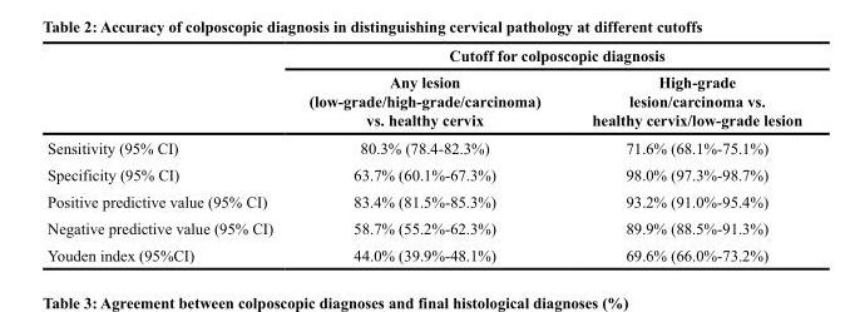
<table><thead><tr><td rowspan="2"></td><td colspan="2">Cutoff for colposcopic diagnosis</td></tr><tr><td>Any lesion (low-grade/high-grade/carcinoma) vs. healthy cervix</td><td>High-grade lesion/carcinoma vs. healthy cervix/low-grade lesion</td></tr></thead><tbody><tr><td>Sensitivity (95% CI)</td><td>80.3% (78.4-82.3%)</td><td>71.6% (68.1%-75.1%)</td></tr><tr><td>Specificity (95% CI)</td><td>63.7% (60.1%-67.3%)</td><td>98.0% (97.3%-98.7%)</td></tr><tr><td>Positive predictive value (95% CI)</td><td>83.4% (81.5%-85.3%)</td><td>93.2% (91.0%-95.4%)</td></tr><tr><td>Negative predictive value (95% CI)</td><td>58.7% (55.2%-62.3%)</td><td>89.9% (88.5%-91.3%)</td></tr><tr><td>Youden index (95%CI)</td><td>44.0% (39.9%-48.1%)</td><td>69.6% (66.0%-73.2%)</td></tr></tbody></table>